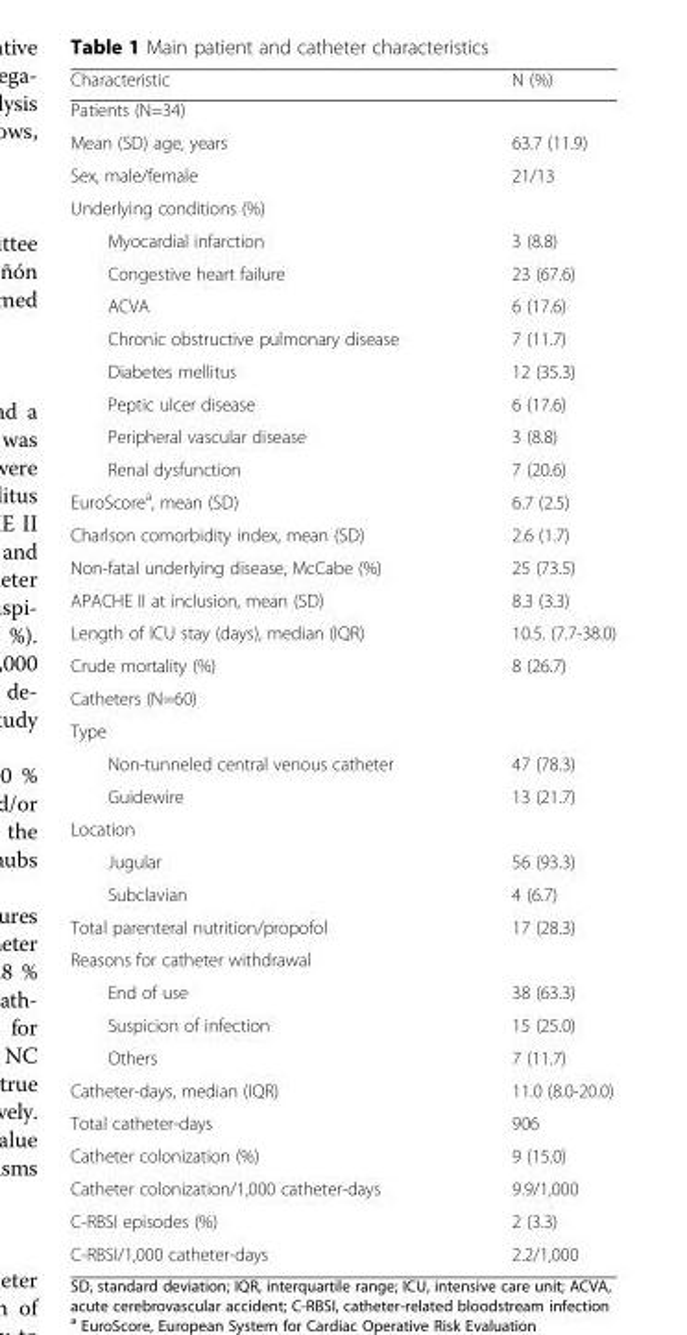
<table><thead><tr><td>Characteristic</td><td>N (%)</td></tr></thead><tbody><tr><td colspan="2">Patients (N=34)</td></tr><tr><td>Mean (SD) age, years</td><td>63.7 (11.9)</td></tr><tr><td>Sex, male/female</td><td>21/13</td></tr><tr><td colspan="2">Underlying conditions (%)</td></tr><tr><td>Myocardial infarction</td><td>3 (8.8)</td></tr><tr><td>Congestive heart failure</td><td>23 (67.6)</td></tr><tr><td>ACVA</td><td>6 (17.6)</td></tr><tr><td>Chronic obstructive pulmonary disease</td><td>7 (11.7)</td></tr><tr><td>Diabetes mellitus</td><td>12 (35.3)</td></tr><tr><td>Peptic ulcer disease</td><td>6 (17.6)</td></tr><tr><td>Peripheral vascular disease</td><td>3 (8.8)</td></tr><tr><td>Renal dysfunction</td><td>7 (20.6)</td></tr><tr><td>EuroScore<sup>a</sup>, mean (SD)</td><td>6.7 (2.5)</td></tr><tr><td>Charlson comorbidity index, mean (SD)</td><td>2.6 (1.7)</td></tr><tr><td>Non-fatal underlying disease, McCabe (%)</td><td>25 (73.5)</td></tr><tr><td>APACHE II at inclusion, mean (SD)</td><td>8.3 (3.3)</td></tr><tr><td>Length of ICU stay (days), median (IQR)</td><td>10.5. (7.7-38.0)</td></tr><tr><td>Crude mortality (%)</td><td>8 (26.7)</td></tr><tr><td colspan="2">Catheters (N=60)</td></tr><tr><td colspan="2">Type</td></tr><tr><td>Non-tunneled central venous catheter</td><td>47 (78.3)</td></tr><tr><td>Guidewire</td><td>13 (21.7)</td></tr><tr><td colspan="2">Location</td></tr><tr><td>Jugular</td><td>56 (93.3)</td></tr><tr><td>Subclavian</td><td>4 (6.7)</td></tr><tr><td>Total parenteral nutrition/propofol</td><td>17 (28.3)</td></tr><tr><td colspan="2">Reasons for catheter withdrawal</td></tr><tr><td>End of use</td><td>38 (63.3)</td></tr><tr><td>Suspicion of infection</td><td>15 (25.0)</td></tr><tr><td>Others</td><td>7 (11.7)</td></tr><tr><td>Catheter-days, median (IQR)</td><td>11.0 (8.0-20.0)</td></tr><tr><td>Total catheter-days</td><td>906</td></tr><tr><td>Catheter colonization (%)</td><td>9 (15.0)</td></tr><tr><td>Catheter colonization/1,000 catheter-days</td><td>9.9/1,000</td></tr><tr><td>C-RBSI episodes (%)</td><td>2 (3.3)</td></tr><tr><td>C-RBSI/1,000 catheter-days</td><td>2.2/1,000</td></tr></tbody></table>